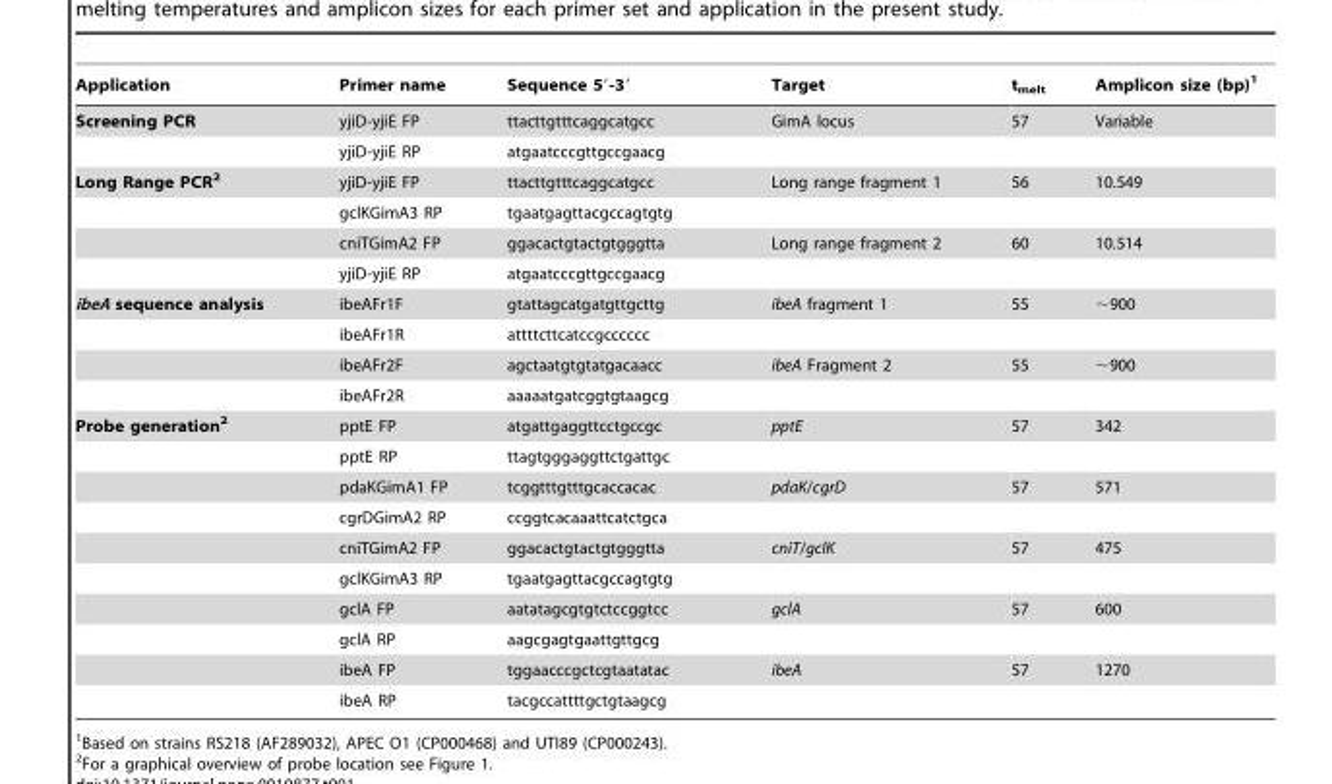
<table><thead><tr><td>Application</td><td>Primer name</td><td>Sequence 5′-3′</td><td>Target</td><td>t<sub>melt</sub></td><td>Amplicon size (bp)<sup>1</sup></td></tr></thead><tbody><tr><td rowspan="2">Screening PCR</td><td>yjiD-yjiE FP</td><td>ttacttgtttcaggcatgcc</td><td>GimA locus</td><td>57</td><td>Variable</td></tr><tr><td>yjiD-yjiE RP</td><td>atgaatcccgttgccgaacg</td><td></td><td></td><td></td></tr><tr><td rowspan="4">Long Range PCR2</td><td>yjiD-yjiE FP</td><td>ttacttgtttcaggcatgcc</td><td>Long range fragment 1</td><td>56</td><td>10.549</td></tr><tr><td>gclKGimA3 RP</td><td>tgaatgagttacgccagtgtg</td><td></td><td></td><td></td></tr><tr><td>cniTGimA2 FP</td><td>ggacactgtactgtgggtta</td><td>Long range fragment 2</td><td>60</td><td>10.514</td></tr><tr><td>yjiD-yjiE RP</td><td>atgaatcccgttgccgaacg</td><td></td><td></td><td></td></tr><tr><td rowspan="4">ibeA sequence analysis</td><td>ibeAFr1F</td><td>gtattagcatgatgttgcttg</td><td>ibeA fragment 1</td><td>55</td><td>∼900</td></tr><tr><td>ibeAFr1R</td><td>attttcttcatccgcccccc</td><td></td><td></td><td></td></tr><tr><td>ibeAFr2F</td><td>agctaatgtgtatgacaacc</td><td>ibeA Fragment 2</td><td>55</td><td>∼900</td></tr><tr><td>ibeAFr2R</td><td>aaaaatgatcggtgtaagcg</td><td></td><td></td><td></td></tr><tr><td rowspan="10">Probe generation2</td><td>pptE FP</td><td>atgattgaggttcctgccgc</td><td>pptE</td><td>57</td><td>342</td></tr><tr><td>pptE RP</td><td>ttagtgggaggttctgattgc</td><td></td><td></td><td></td></tr><tr><td>pdaKGimA1 FP</td><td>tcggtttgtttgcaccacac</td><td>pdaK/cgrD</td><td>57</td><td>571</td></tr><tr><td>cgrDGimA2 RP</td><td>ccggtcacaaattcatctgca</td><td></td><td></td><td></td></tr><tr><td>cniTGimA2 FP</td><td>ggacactgtactgtgggtta</td><td>cniT/gclK</td><td>57</td><td>475</td></tr><tr><td>gclKGimA3 RP</td><td>tgaatgagttacgccagtgtg</td><td></td><td></td><td></td></tr><tr><td>gclA FP</td><td>aatatagcgtgtctccggtcc</td><td>gclA</td><td>57</td><td>600</td></tr><tr><td>gclA RP</td><td>aagcgagtgaattgttgcg</td><td></td><td></td><td></td></tr><tr><td>ibeA FP</td><td>tggaacccgctcgtaatatac</td><td>ibeA</td><td>57</td><td>1270</td></tr><tr><td>ibeA RP</td><td>tacgccattttgctgtaagcg</td><td></td><td></td><td></td></tr></tbody></table>